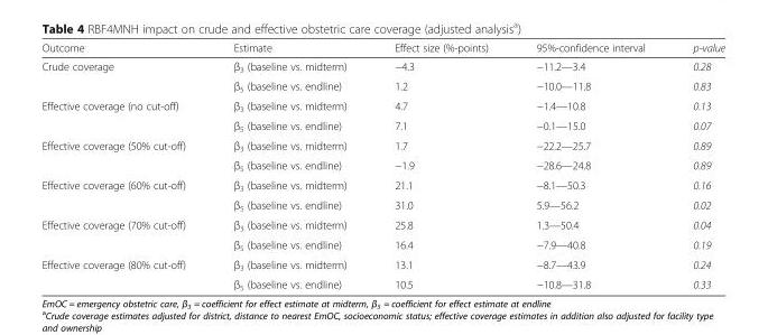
<table><thead><tr><td>Outcome</td><td>Estimate</td><td>Effect size (%-points)</td><td>95%-confidence interval</td><td>p-value</td></tr></thead><tbody><tr><td rowspan="2">Crude coverage</td><td>β<sub>3</sub> (baseline vs. midterm)</td><td>−4.3</td><td>−11.2—3.4</td><td>0.28</td></tr><tr><td>β<sub>5</sub> (baseline vs. endline)</td><td>1.2</td><td>−10.0—11.8</td><td>0.83</td></tr><tr><td rowspan="2">Effective coverage (no cut-off)</td><td>β<sub>3</sub> (baseline vs. midterm)</td><td>4.7</td><td>−1.4—10.8</td><td>0.13</td></tr><tr><td>β<sub>5</sub> (baseline vs. endline)</td><td>7.1</td><td>−0.1—15.0</td><td>0.07</td></tr><tr><td rowspan="2">Effective coverage (50% cut-off)</td><td>β<sub>3</sub> (baseline vs. midterm)</td><td>1.7</td><td>−22.2—25.7</td><td>0.89</td></tr><tr><td>β<sub>5</sub> (baseline vs. endline)</td><td>−1.9</td><td>−28.6—24.8</td><td>0.89</td></tr><tr><td rowspan="2">Effective coverage (60% cut-off)</td><td>β<sub>3</sub> (baseline vs. midterm)</td><td>21.1</td><td>−8.1—50.3</td><td>0.16</td></tr><tr><td>β<sub>5</sub> (baseline vs. endline)</td><td>31.0</td><td>5.9—56.2</td><td>0.02</td></tr><tr><td rowspan="2">Effective coverage (70% cut-off)</td><td>β<sub>3</sub> (baseline vs. midterm)</td><td>25.8</td><td>1.3—50.4</td><td>0.04</td></tr><tr><td>β<sub>5</sub> (baseline vs. endline)</td><td>16.4</td><td>−7.9—40.8</td><td>0.19</td></tr><tr><td rowspan="2">Effective coverage (80% cut-off)</td><td>β<sub>3</sub> (baseline vs. midterm)</td><td>13.1</td><td>−8.7—43.9</td><td>0.24</td></tr><tr><td>β<sub>5</sub> (baseline vs. endline)</td><td>10.5</td><td>−10.8—31.8</td><td>0.33</td></tr></tbody></table>